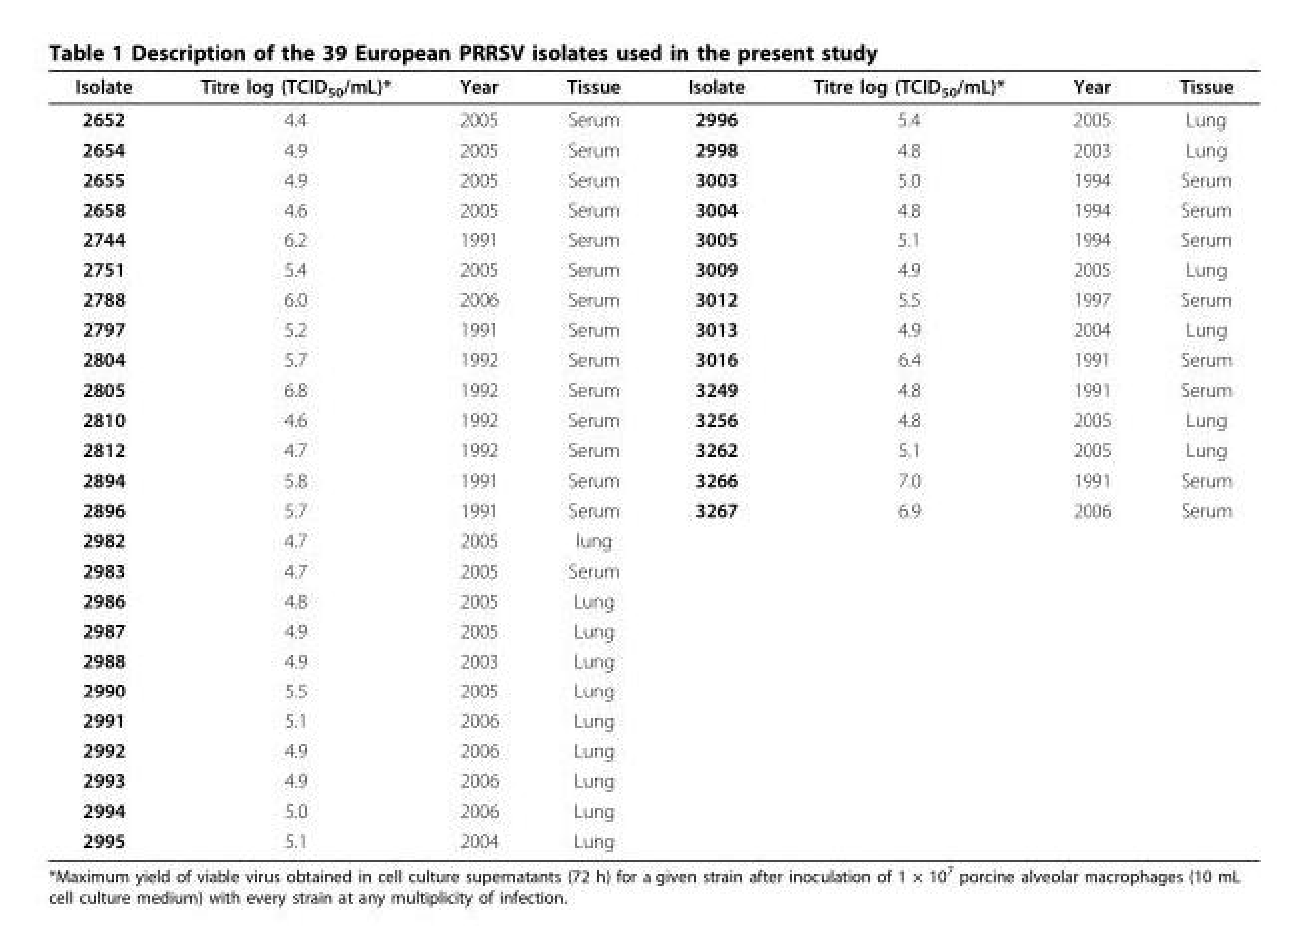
<table><thead><tr><td>Isolate</td><td>Titre log (TCID<sub>50</sub>/mL)*</td><td>Year</td><td>Tissue</td><td>Isolate</td><td>Titre log (TCID<sub>50</sub>/mL)*</td><td>Year</td><td>Tissue</td></tr></thead><tbody><tr><td>2652</td><td>4.4</td><td>2005</td><td>Serum</td><td>2996</td><td>5.4</td><td>2005</td><td>Lung</td></tr><tr><td>2654</td><td>4.9</td><td>2005</td><td>Serum</td><td>2998</td><td>4.8</td><td>2003</td><td>Lung</td></tr><tr><td>2655</td><td>4.9</td><td>2005</td><td>Serum</td><td>3003</td><td>5.0</td><td>1994</td><td>Serum</td></tr><tr><td>2658</td><td>4.6</td><td>2005</td><td>Serum</td><td>3004</td><td>4.8</td><td>1994</td><td>Serum</td></tr><tr><td>2744</td><td>6.2</td><td>1991</td><td>Serum</td><td>3005</td><td>5.1</td><td>1994</td><td>Serum</td></tr><tr><td>2751</td><td>5.4</td><td>2005</td><td>Serum</td><td>3009</td><td>4.9</td><td>2005</td><td>Lung</td></tr><tr><td>2788</td><td>6.0</td><td>2006</td><td>Serum</td><td>3012</td><td>5.5</td><td>1997</td><td>Serum</td></tr><tr><td>2797</td><td>5.2</td><td>1991</td><td>Serum</td><td>3013</td><td>4.9</td><td>2004</td><td>Lung</td></tr><tr><td>2804</td><td>5.7</td><td>1992</td><td>Serum</td><td>3016</td><td>6.4</td><td>1991</td><td>Serum</td></tr><tr><td>2805</td><td>6.8</td><td>1992</td><td>Serum</td><td>3249</td><td>4.8</td><td>1991</td><td>Serum</td></tr><tr><td>2810</td><td>4.6</td><td>1992</td><td>Serum</td><td>3256</td><td>4.8</td><td>2005</td><td>Lung</td></tr><tr><td>2812</td><td>4.7</td><td>1992</td><td>Serum</td><td>3262</td><td>5.1</td><td>2005</td><td>Lung</td></tr><tr><td>2894</td><td>5.8</td><td>1991</td><td>Serum</td><td>3266</td><td>7.0</td><td>1991</td><td>Serum</td></tr><tr><td>2896</td><td>5.7</td><td>1991</td><td>Serum</td><td>3267</td><td>6.9</td><td>2006</td><td>Serum</td></tr><tr><td>2982</td><td>4.7</td><td>2005</td><td>lung</td><td></td><td></td><td></td><td></td></tr><tr><td>2983</td><td>4.7</td><td>2005</td><td>Serum</td><td></td><td></td><td></td><td></td></tr><tr><td>2986</td><td>4.8</td><td>2005</td><td>Lung</td><td></td><td></td><td></td><td></td></tr><tr><td>2987</td><td>4.9</td><td>2005</td><td>Lung</td><td></td><td></td><td></td><td></td></tr><tr><td>2988</td><td>4.9</td><td>2003</td><td>Lung</td><td></td><td></td><td></td><td></td></tr><tr><td>2990</td><td>5.5</td><td>2005</td><td>Lung</td><td></td><td></td><td></td><td></td></tr><tr><td>2991</td><td>5.1</td><td>2006</td><td>Lung</td><td></td><td></td><td></td><td></td></tr><tr><td>2992</td><td>4.9</td><td>2006</td><td>Lung</td><td></td><td></td><td></td><td></td></tr><tr><td>2993</td><td>4.9</td><td>2006</td><td>Lung</td><td></td><td></td><td></td><td></td></tr><tr><td>2994</td><td>5.0</td><td>2006</td><td>Lung</td><td></td><td></td><td></td><td></td></tr><tr><td>2995</td><td>5.1</td><td>2004</td><td>Lung</td><td></td><td></td><td></td><td></td></tr></tbody></table>